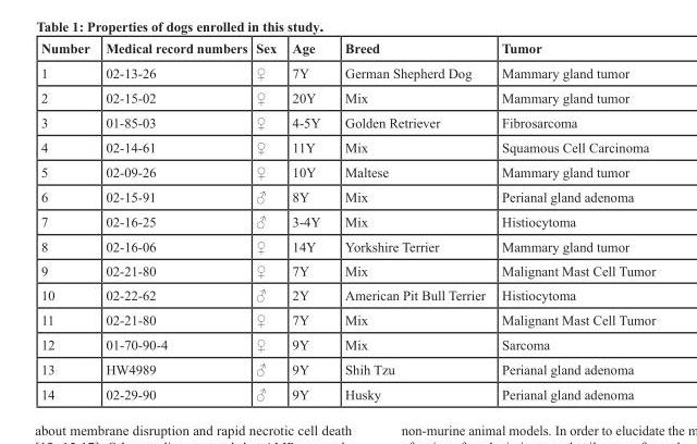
<table><thead><tr><td>Number</td><td>Medical record numbers</td><td>Sex</td><td>Age</td><td>Breed</td><td>Tumor</td></tr></thead><tbody><tr><td>1</td><td>02-13-26</td><td>♀</td><td>7Y</td><td>German Shepherd Dog</td><td>Mammary gland tumor</td></tr><tr><td>2</td><td>02-15-02</td><td>♀</td><td>20Y</td><td>Mix</td><td>Mammary gland tumor</td></tr><tr><td>3</td><td>01-85-03</td><td>♀</td><td>4-5Y</td><td>Golden Retriever</td><td>Fibrosarcoma</td></tr><tr><td>4</td><td>02-14-61</td><td>♀</td><td>11Y</td><td>Mix</td><td>Squamous Cell Carcinoma</td></tr><tr><td>5</td><td>02-09-26</td><td>♀</td><td>10Y</td><td>Maltese</td><td>Mammary gland tumor</td></tr><tr><td>6</td><td>02-15-91</td><td>♂</td><td>8Y</td><td>Mix</td><td>Perianal gland adenoma</td></tr><tr><td>7</td><td>02-16-25</td><td>♂</td><td>3-4Y</td><td>Mix</td><td>Histiocytoma</td></tr><tr><td>8</td><td>02-16-06</td><td>♀</td><td>14Y</td><td>Yorkshire Terrier</td><td>Mammary gland tumor</td></tr><tr><td>9</td><td>02-21-80</td><td>♀</td><td>7Y</td><td>Mix</td><td>Malignant Mast Cell Tumor</td></tr><tr><td>10</td><td>02-22-62</td><td>♂</td><td>2Y</td><td>American Pit Bull Terrier</td><td>Histiocytoma</td></tr><tr><td>11</td><td>02-21-80</td><td>♀</td><td>7Y</td><td>Mix</td><td>Malignant Mast Cell Tumor</td></tr><tr><td>12</td><td>01-70-90-4</td><td>♀</td><td>9Y</td><td>Mix</td><td>Sarcoma</td></tr><tr><td>13</td><td>HW4989</td><td>♂</td><td>9Y</td><td>Shih Tzu</td><td>Perianal gland adenoma</td></tr><tr><td>14</td><td>02-29-90</td><td>♂</td><td>9Y</td><td>Husky</td><td>Perianal gland adenoma</td></tr></tbody></table>